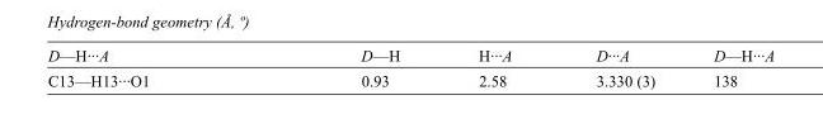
<table><tbody><tr><td>D—H···A</td><td>D—H</td><td>H···A</td><td>D···A</td><td>D—H···A</td></tr><tr><td>C13—H13···O1</td><td>0.93</td><td>2.58</td><td>3.330 (3)</td><td>138</td></tr></tbody></table>